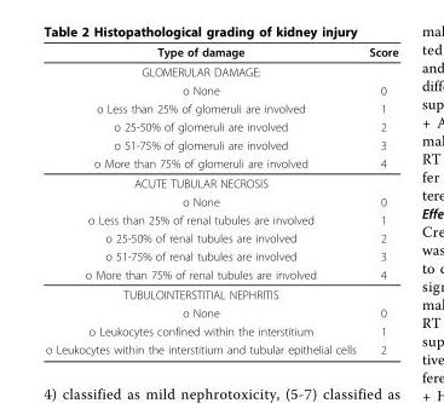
<table><thead><tr><td>Type of damage</td><td>Score</td></tr></thead><tbody><tr><td colspan="2">GLOMERULAR DAMAGE:</td></tr><tr><td>o None</td><td>0</td></tr><tr><td>o Less than 25% of glomeruli are involved</td><td>1</td></tr><tr><td>o 25-50% of glomeruli are involved</td><td>2</td></tr><tr><td>o 51-75% of glomeruli are involved</td><td>3</td></tr><tr><td>o More than 75% of glomeruli are involved</td><td>4</td></tr><tr><td colspan="2">ACUTE TUBULAR NECROSIS</td></tr><tr><td>o None</td><td>0</td></tr><tr><td>o Less than 25% of renal tubules are involved</td><td>1</td></tr><tr><td>o 25-50% of renal tubules are involved</td><td>2</td></tr><tr><td>o 51-75% of renal tubules are involved</td><td>3</td></tr><tr><td>o More than 75% of renal tubules are involved</td><td>4</td></tr><tr><td colspan="2">TUBULOINTERSTITIAL NEPHRITIS</td></tr><tr><td>o None</td><td>0</td></tr><tr><td>o Leukocytes confined within the interstitium</td><td>1</td></tr><tr><td>o Leukocytes within the interstitium and tubular epithelial cells</td><td>2</td></tr></tbody></table>